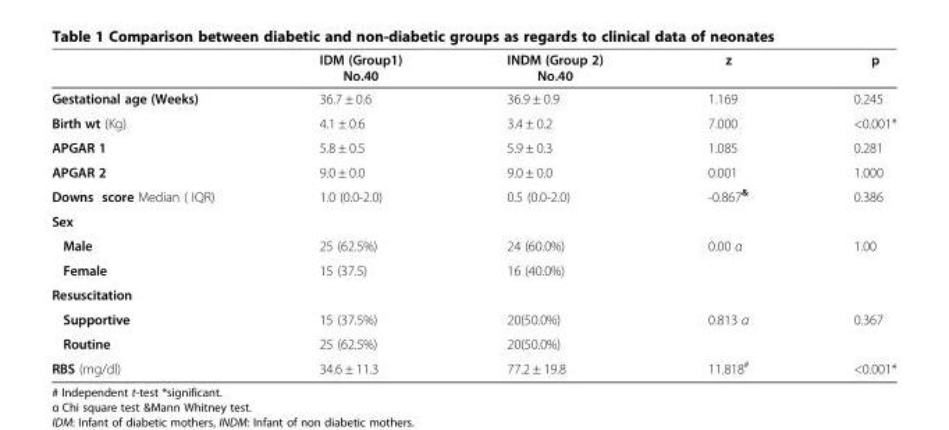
<table><thead><tr><td></td><td>IDM (Group1) No.40</td><td>INDM (Group 2) No.40</td><td>z</td><td>p</td></tr></thead><tbody><tr><td>Gestational age (Weeks)</td><td>36.7 ± 0.6</td><td>36.9 ± 0.9</td><td>1.169</td><td>0.245</td></tr><tr><td>Birth wt (Kg)</td><td>4.1 ± 0.6</td><td>3.4 ± 0.2</td><td>7.000</td><td>&lt;0.001*</td></tr><tr><td>APGAR 1</td><td>5.8 ± 0.5</td><td>5.9 ± 0.3</td><td>1.085</td><td>0.281</td></tr><tr><td>APGAR 2</td><td>9.0 ± 0.0</td><td>9.0 ± 0.0</td><td>0.001</td><td>1.000</td></tr><tr><td>Downs score Median ( IQR)</td><td>1.0 (0.0-2.0)</td><td>0.5 (0.0-2.0)</td><td>-0.867<sup>&amp;</sup></td><td>0.386</td></tr><tr><td colspan="5">Sex</td></tr><tr><td>Male</td><td>25 (62.5%)</td><td>24 (60.0%)</td><td>0.00 α</td><td>1.00</td></tr><tr><td>Female</td><td>15 (37.5)</td><td>16 (40.0%)</td><td></td><td></td></tr><tr><td colspan="5">Resuscitation</td></tr><tr><td>Supportive</td><td>15 (37.5%)</td><td>20(50.0%)</td><td>0.813 α</td><td>0.367</td></tr><tr><td>Routine</td><td>25 (62.5%)</td><td>20(50.0%)</td><td></td><td></td></tr><tr><td>RBS (mg/dl)</td><td>34.6 ± 11.3</td><td>77.2 ± 19.8</td><td>11.818<sup>#</sup></td><td>&lt;0.001*</td></tr></tbody></table>